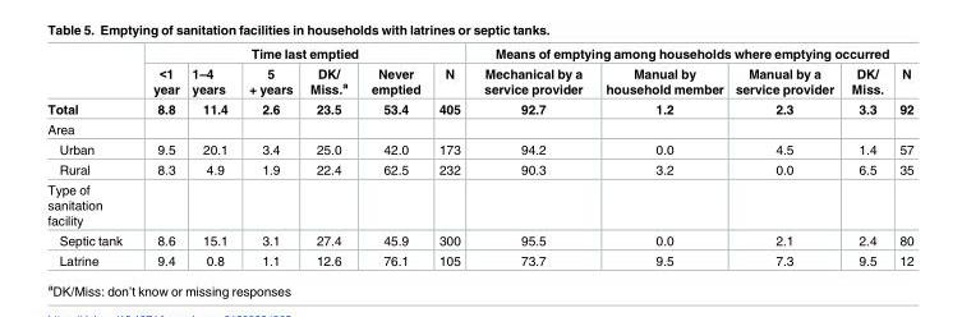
<table><thead><tr><td rowspan="2"></td><td colspan="6">Time last emptied</td><td colspan="5">Means of emptying among households where emptying occurred</td></tr><tr><td>&lt;1 year</td><td>1–4 years</td><td>5 + years</td><td>DK/ Miss.<sup>a</sup></td><td>Never emptied</td><td>N</td><td>Mechanical by a service provider</td><td>Manual by household member</td><td>Manual by a service provider</td><td>DK/ Miss.</td><td>N</td></tr></thead><tbody><tr><td>Total</td><td>8.8</td><td>11.4</td><td>2.6</td><td>23.5</td><td>53.4</td><td>405</td><td>92.7</td><td>1.2</td><td>2.3</td><td>3.3</td><td>92</td></tr><tr><td colspan="12">Area</td></tr><tr><td>Urban</td><td>9.5</td><td>20.1</td><td>3.4</td><td>25.0</td><td>42.0</td><td>173</td><td>94.2</td><td>0.0</td><td>4.5</td><td>1.4</td><td>57</td></tr><tr><td>Rural</td><td>8.3</td><td>4.9</td><td>1.9</td><td>22.4</td><td>62.5</td><td>232</td><td>90.3</td><td>3.2</td><td>0.0</td><td>6.5</td><td>35</td></tr><tr><td colspan="12">Type of sanitation facility</td></tr><tr><td>Septic tank</td><td>8.6</td><td>15.1</td><td>3.1</td><td>27.4</td><td>45.9</td><td>300</td><td>95.5</td><td>0.0</td><td>2.1</td><td>2.4</td><td>80</td></tr><tr><td>Latrine</td><td>9.4</td><td>0.8</td><td>1.1</td><td>12.6</td><td>76.1</td><td>105</td><td>73.7</td><td>9.5</td><td>7.3</td><td>9.5</td><td>12</td></tr></tbody></table>